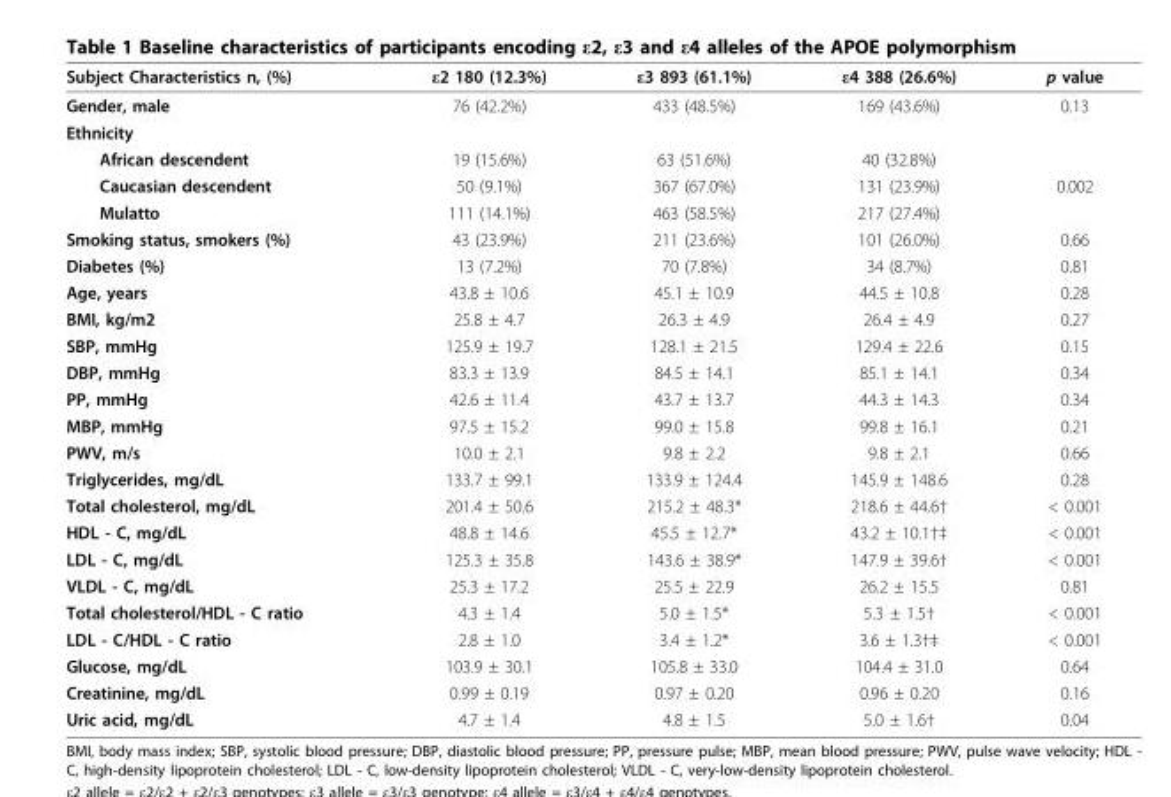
<table><thead><tr><td>Subject Characteristics n, (%)</td><td>ε2 180 (12.3%)</td><td>ε3 893 (61.1%)</td><td>ε4 388 (26.6%)</td><td>p value</td></tr></thead><tbody><tr><td>Gender, male</td><td>76 (42.2%)</td><td>433 (48.5%)</td><td>169 (43.6%)</td><td>0.13</td></tr><tr><td colspan="5">Ethnicity</td></tr><tr><td>African descendent</td><td>19 (15.6%)</td><td>63 (51.6%)</td><td>40 (32.8%)</td><td></td></tr><tr><td>Caucasian descendent</td><td>50 (9.1%)</td><td>367 (67.0%)</td><td>131 (23.9%)</td><td>0.002</td></tr><tr><td>Mulatto</td><td>111 (14.1%)</td><td>463 (58.5%)</td><td>217 (27.4%)</td><td></td></tr><tr><td>Smoking status, smokers (%)</td><td>43 (23.9%)</td><td>211 (23.6%)</td><td>101 (26.0%)</td><td>0.66</td></tr><tr><td>Diabetes (%)</td><td>13 (7.2%)</td><td>70 (7.8%)</td><td>34 (8.7%)</td><td>0.81</td></tr><tr><td>Age, years</td><td>43.8 ± 10.6</td><td>45.1 ± 10.9</td><td>44.5 ± 10.8</td><td>0.28</td></tr><tr><td>BMI, kg/m2</td><td>25.8 ± 4.7</td><td>26.3 ± 4.9</td><td>26.4 ± 4.9</td><td>0.27</td></tr><tr><td>SBP, mmHg</td><td>125.9 ± 19.7</td><td>128.1 ± 21.5</td><td>129.4 ± 22.6</td><td>0.15</td></tr><tr><td>DBP, mmHg</td><td>83.3 ± 13.9</td><td>84.5 ± 14.1</td><td>85.1 ± 14.1</td><td>0.34</td></tr><tr><td>PP, mmHg</td><td>42.6 ± 11.4</td><td>43.7 ± 13.7</td><td>44.3 ± 14.3</td><td>0.34</td></tr><tr><td>MBP, mmHg</td><td>97.5 ± 15.2</td><td>99.0 ± 15.8</td><td>99.8 ± 16.1</td><td>0.21</td></tr><tr><td>PWV, m/s</td><td>10.0 ± 2.1</td><td>9.8 ± 2.2</td><td>9.8 ± 2.1</td><td>0.66</td></tr><tr><td>Triglycerides, mg/dL</td><td>133.7 ± 99.1</td><td>133.9 ± 124.4</td><td>145.9 ± 148.6</td><td>0.28</td></tr><tr><td>Total cholesterol, mg/dL</td><td>201.4 ± 50.6</td><td>215.2 ± 48.3*</td><td>218.6 ± 44.6†</td><td>&lt; 0.001</td></tr><tr><td>HDL - C, mg/dL</td><td>48.8 ± 14.6</td><td>45.5 ± 12.7*</td><td>43.2 ± 10.1†‡</td><td>&lt; 0.001</td></tr><tr><td>LDL - C, mg/dL</td><td>125.3 ± 35.8</td><td>143.6 ± 38.9*</td><td>147.9 ± 39.6†</td><td>&lt; 0.001</td></tr><tr><td>VLDL - C, mg/dL</td><td>25.3 ± 17.2</td><td>25.5 ± 22.9</td><td>26.2 ± 15.5</td><td>0.81</td></tr><tr><td>Total cholesterol/HDL - C ratio</td><td>4.3 ± 1.4</td><td>5.0 ± 1.5*</td><td>5.3 ± 1.5†</td><td>&lt; 0.001</td></tr><tr><td>LDL - C/HDL - C ratio</td><td>2.8 ± 1.0</td><td>3.4 ± 1.2*</td><td>3.6 ± 1.3†‡</td><td>&lt; 0.001</td></tr><tr><td>Glucose, mg/dL</td><td>103.9 ± 30.1</td><td>105.8 ± 33.0</td><td>104.4 ± 31.0</td><td>0.64</td></tr><tr><td>Creatinine, mg/dL</td><td>0.99 ± 0.19</td><td>0.97 ± 0.20</td><td>0.96 ± 0.20</td><td>0.16</td></tr><tr><td>Uric acid, mg/dL</td><td>4.7 ± 1.4</td><td>4.8 ± 1.5</td><td>5.0 ± 1.6†</td><td>0.04</td></tr></tbody></table>